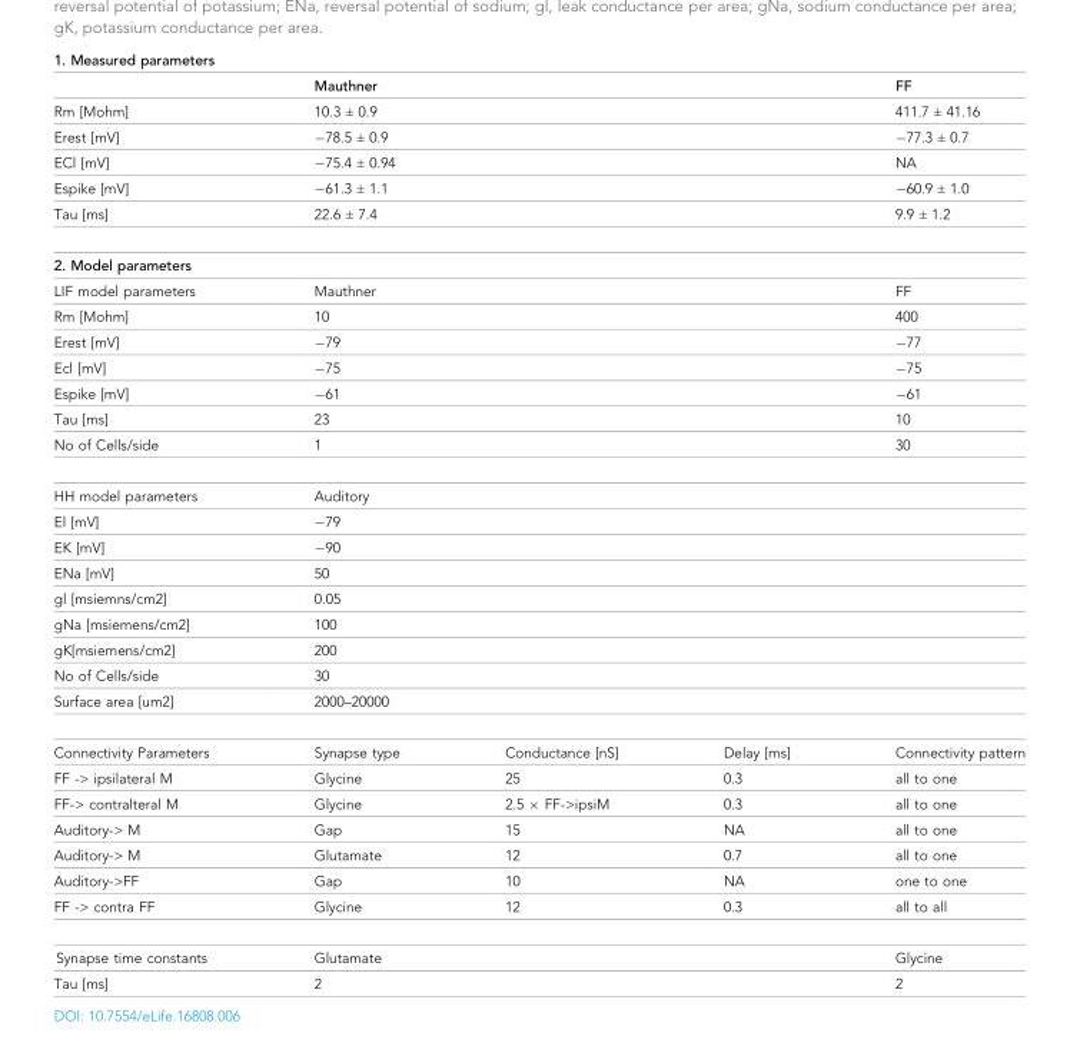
<table><tbody><tr><td colspan="5">1. Measured parameters</td></tr><tr><td></td><td colspan="3">Mauthner</td><td>FF</td></tr><tr><td>Rm [Mohm]</td><td colspan="3">10.3 ± 0.9</td><td>411.7 ± 41.16</td></tr><tr><td>Erest [mV]</td><td colspan="3">−78.5 ± 0.9</td><td>−77.3 ± 0.7</td></tr><tr><td>ECl [mV]</td><td colspan="3">−75.4 ± 0.94</td><td>NA</td></tr><tr><td>Espike [mV]</td><td colspan="3">−61.3 ± 1.1</td><td>−60.9 ± 1.0</td></tr><tr><td>Tau [ms]</td><td colspan="3">22.6 ± 7.4</td><td>9.9 ± 1.2</td></tr><tr><td colspan="5">2. Model parameters</td></tr><tr><td>LIF model parameters</td><td colspan="3">Mauthner</td><td>FF</td></tr><tr><td>Rm [Mohm]</td><td colspan="3">10</td><td>400</td></tr><tr><td>Erest [mV]</td><td colspan="3">−79</td><td>−77</td></tr><tr><td>Ecl [mV]</td><td colspan="3">−75</td><td>−75</td></tr><tr><td>Espike [mV]</td><td colspan="3">−61</td><td>−61</td></tr><tr><td>Tau [ms]</td><td colspan="3">23</td><td>10</td></tr><tr><td>No of Cells/side</td><td colspan="3">1</td><td>30</td></tr><tr><td>HH model parameters</td><td colspan="4">Auditory</td></tr><tr><td>El [mV]</td><td colspan="4">−79</td></tr><tr><td>EK [mV]</td><td colspan="4">−90</td></tr><tr><td>ENa [mV]</td><td colspan="4">50</td></tr><tr><td>gl [msiemns/cm2]</td><td colspan="4">0.05</td></tr><tr><td>gNa [msiemens/cm2]</td><td colspan="4">100</td></tr><tr><td>gK[msiemens/cm2]</td><td colspan="4">200</td></tr><tr><td>No of Cells/side</td><td colspan="4">30</td></tr><tr><td>Surface area [um2]</td><td colspan="4">2000–20000</td></tr><tr><td>Connectivity Parameters</td><td>Synapse type</td><td>Conductance [nS]</td><td>Delay [ms]</td><td>Connectivity pattern</td></tr><tr><td>FF -&gt; ipsilateral M</td><td>Glycine</td><td>25</td><td>0.3</td><td>all to one</td></tr><tr><td>FF-&gt; contralteral M</td><td>Glycine</td><td>2.5 × FF-&gt;ipsiM</td><td>0.3</td><td>all to one</td></tr><tr><td>Auditory-&gt; M</td><td>Gap</td><td>15</td><td>NA</td><td>all to one</td></tr><tr><td>Auditory-&gt; M</td><td>Glutamate</td><td>12</td><td>0.7</td><td>all to one</td></tr><tr><td>Auditory-&gt;FF</td><td>Gap</td><td>10</td><td>NA</td><td>one to one</td></tr><tr><td>FF -&gt; contra FF</td><td>Glycine</td><td>12</td><td>0.3</td><td>all to all</td></tr><tr><td>Synapse time constants</td><td colspan="3">Glutamate</td><td>Glycine</td></tr><tr><td>Tau [ms]</td><td colspan="3">2</td><td>2</td></tr></tbody></table>